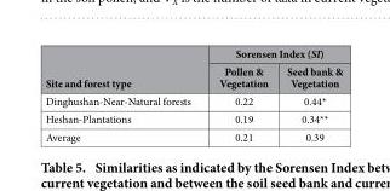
<table><thead><tr><td rowspan="2">Site and forest type</td><td colspan="2">Sorensen Index (SI)</td></tr><tr><td>Pollen &amp; Vegetation</td><td>Seed bank &amp; Vegetation</td></tr></thead><tbody><tr><td>Dinghushan-Near-Natural forests</td><td>0.22</td><td>0.44*</td></tr><tr><td>Heshan-Plantations</td><td>0.19</td><td>0.34**</td></tr><tr><td>Average</td><td>0.21</td><td>0.39</td></tr></tbody></table>